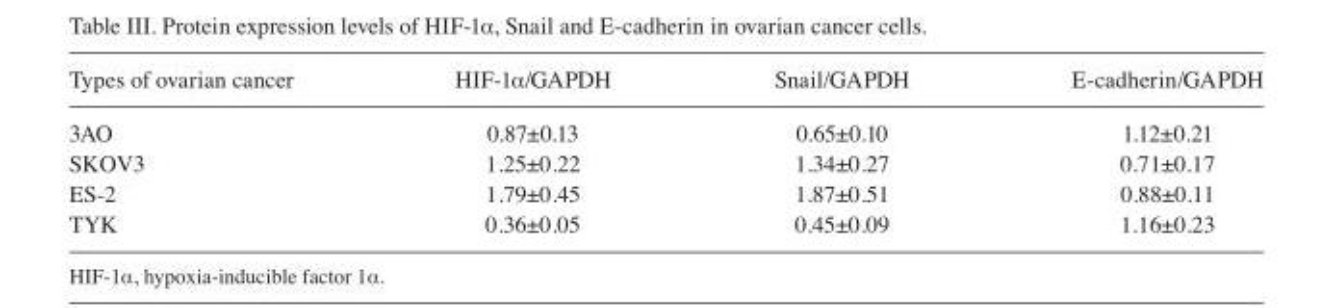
<table><thead><tr><td>Types of ovarian cancer</td><td>HIF-1α/GAPDH</td><td>Snail/GAPDH</td><td>E-cadherin/GAPDH</td></tr></thead><tbody><tr><td>3AO</td><td>0.87±0.13</td><td>0.65±0.10</td><td>1.12±0.21</td></tr><tr><td>SKOV3</td><td>1.25±0.22</td><td>1.34±0.27</td><td>0.71±0.17</td></tr><tr><td>ES-2</td><td>1.79±0.45</td><td>1.87±0.51</td><td>0.88±0.11</td></tr><tr><td>TYK</td><td>0.36±0.05</td><td>0.45±0.09</td><td>1.16±0.23</td></tr></tbody></table>